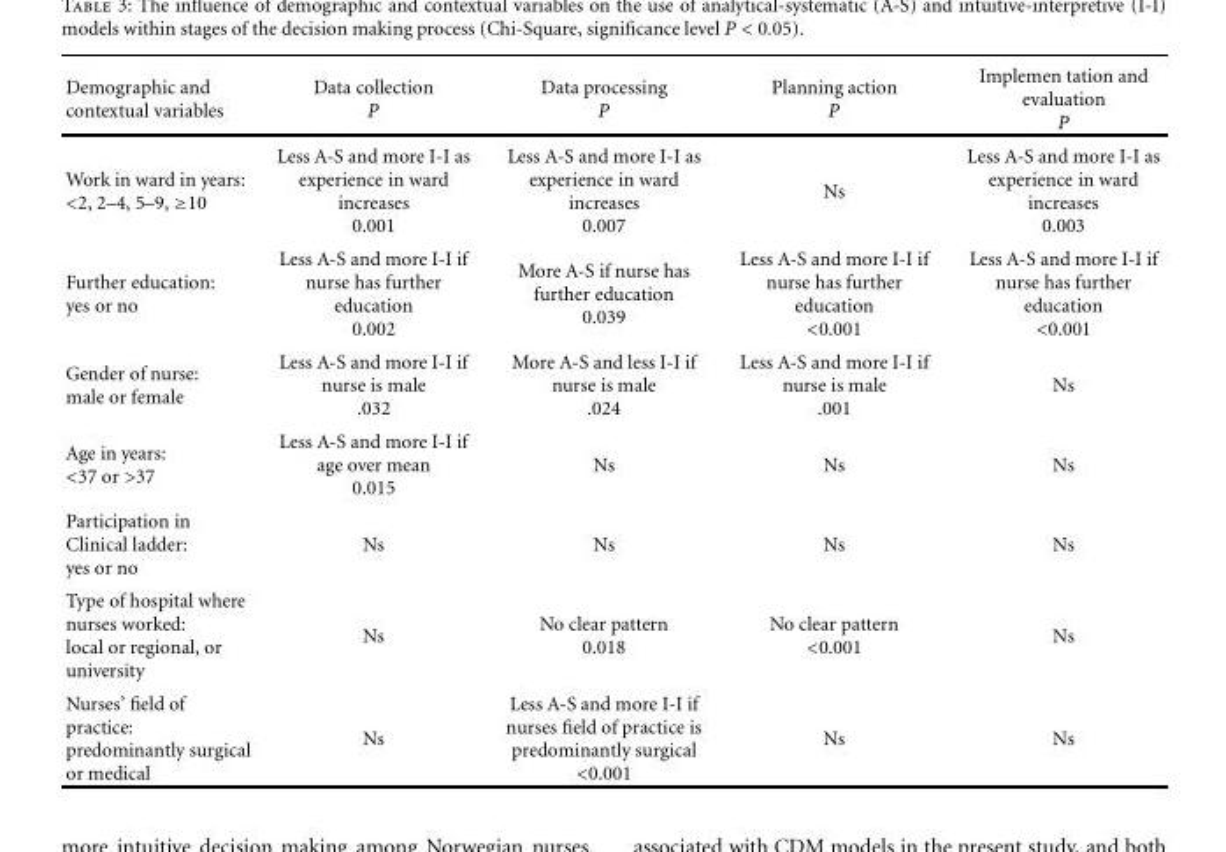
<table><thead><tr><td>Demographic and contextual variables</td><td>Data collection P</td><td>Data processing P</td><td>Planning action P</td><td>Implemen tation and evaluation P</td></tr></thead><tbody><tr><td>Work in ward in years: &lt;2, 2–4, 5–9, ≥10</td><td>Less A-S and more I-I as experience in ward increases 0.001</td><td>Less A-S and more I-I as experience in ward increases 0.007</td><td>Ns</td><td>Less A-S and more I-I as experience in ward increases 0.003</td></tr><tr><td>Further education: yes or no</td><td>Less A-S and more I-I if nurse has further education 0.002</td><td>More A-S if nurse has further education 0.039</td><td>Less A-S and more I-I if nurse has further education &lt;0.001</td><td>Less A-S and more I-I if nurse has further education &lt;0.001</td></tr><tr><td>Gender of nurse: male or female</td><td>Less A-S and more I-I if nurse is male .032</td><td>More A-S and less I-I if nurse is male .024</td><td>Less A-S and more I-I if nurse is male .001</td><td>Ns</td></tr><tr><td>Age in years: &lt;37 or &gt;37</td><td>Less A-S and more I-I if age over mean 0.015</td><td>Ns</td><td>Ns</td><td>Ns</td></tr><tr><td>Participation in Clinical ladder: yes or no</td><td>Ns</td><td>Ns</td><td>Ns</td><td>Ns</td></tr><tr><td>Type of hospital where nurses worked: local or regional, or university</td><td>Ns</td><td>No clear pattern 0.018</td><td>No clear pattern &lt;0.001</td><td>Ns</td></tr><tr><td>Nurses’ field of practice: predominantly surgical or medical</td><td>Ns</td><td>Less A-S and more I-I if nurses field of practice is predominantly surgical &lt;0.001</td><td>Ns</td><td>Ns</td></tr></tbody></table>